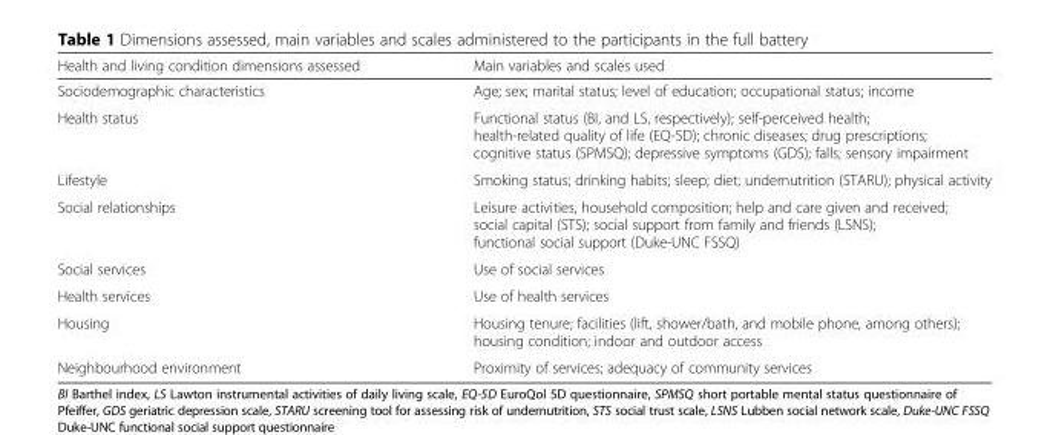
<table><thead><tr><td>Health and living condition dimensions assessed</td><td>Main variables and scales used</td></tr></thead><tbody><tr><td>Sociodemographic characteristics</td><td>Age; sex; marital status; level of education; occupational status; income</td></tr><tr><td>Health status</td><td>Functional status (BI, and LS, respectively); self-perceived health; health-related quality of life (EQ-5D); chronic diseases; drug prescriptions; cognitive status (SPMSQ); depressive symptoms (GDS); falls; sensory impairment</td></tr><tr><td>Lifestyle</td><td>Smoking status; drinking habits; sleep; diet; undernutrition (STARU); physical activity</td></tr><tr><td>Social relationships</td><td>Leisure activities, household composition; help and care given and received; social capital (STS); social support from family and friends (LSNS); functional social support (Duke-UNC FSSQ)</td></tr><tr><td>Social services</td><td>Use of social services</td></tr><tr><td>Health services</td><td>Use of health services</td></tr><tr><td>Housing</td><td>Housing tenure; facilities (lift, shower/bath, and mobile phone, among others); housing condition; indoor and outdoor access</td></tr><tr><td>Neighbourhood environment</td><td>Proximity of services; adequacy of community services</td></tr></tbody></table>